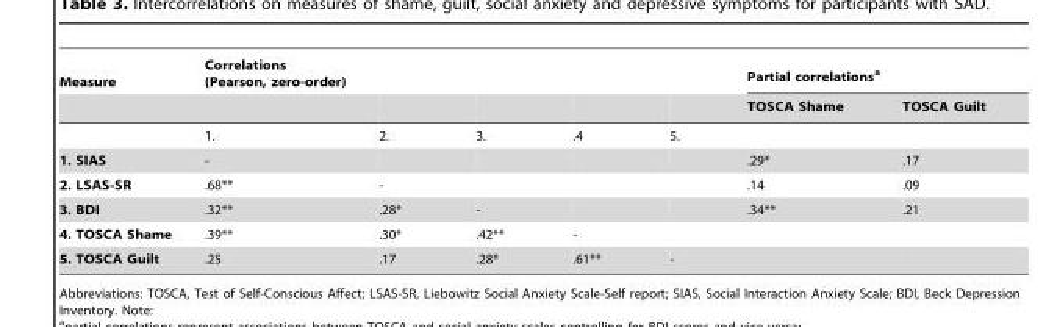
<table><thead><tr><td rowspan="2">Measure</td><td colspan="5">Correlations (Pearson, zero-order)</td><td colspan="2">Partial correlations<sup>a</sup></td></tr><tr><td></td><td></td><td></td><td></td><td></td><td>TOSCA Shame</td><td>TOSCA Guilt</td></tr></thead><tbody><tr><td></td><td>1.</td><td>2.</td><td>3.</td><td>.4</td><td>5.</td><td></td><td></td></tr><tr><td>1. SIAS</td><td>-</td><td></td><td></td><td></td><td></td><td>.29*</td><td>.17</td></tr><tr><td>2. LSAS-SR</td><td>.68**</td><td>-</td><td></td><td></td><td></td><td>.14</td><td>.09</td></tr><tr><td>3. BDI</td><td>.32**</td><td>.28*</td><td>-</td><td></td><td></td><td>.34**</td><td>.21</td></tr><tr><td>4. TOSCA Shame</td><td>.39**</td><td>.30*</td><td>.42**</td><td>-</td><td></td><td></td><td></td></tr><tr><td>5. TOSCA Guilt</td><td>.25</td><td>.17</td><td>.28*</td><td>.61**</td><td>-</td><td></td><td></td></tr></tbody></table>